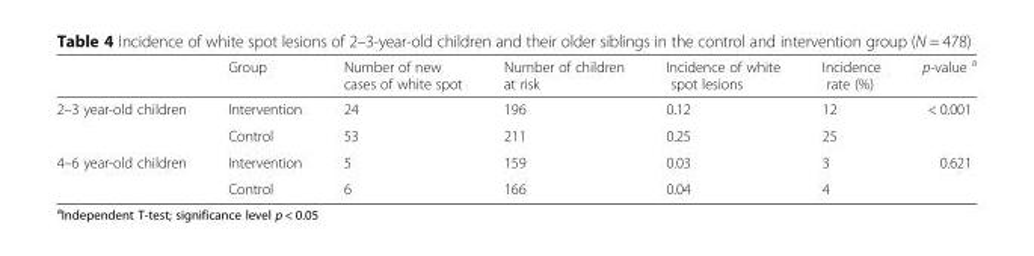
<table><thead><tr><td></td><td>Group</td><td>Number of new cases of white spot</td><td>Number of children at risk</td><td>Incidence of white spot lesions</td><td>Incidence rate (%)</td><td>p-value <sup>a</sup></td></tr></thead><tbody><tr><td rowspan="2">2–3 year-old children</td><td>Intervention</td><td>24</td><td>196</td><td>0.12</td><td>12</td><td rowspan="2">&lt; 0.001</td></tr><tr><td>Control</td><td>53</td><td>211</td><td>0.25</td><td>25</td></tr><tr><td rowspan="2">4–6 year-old children</td><td>Intervention</td><td>5</td><td>159</td><td>0.03</td><td>3</td><td>0.621</td></tr><tr><td>Control</td><td>6</td><td>166</td><td>0.04</td><td>4</td><td></td></tr></tbody></table>